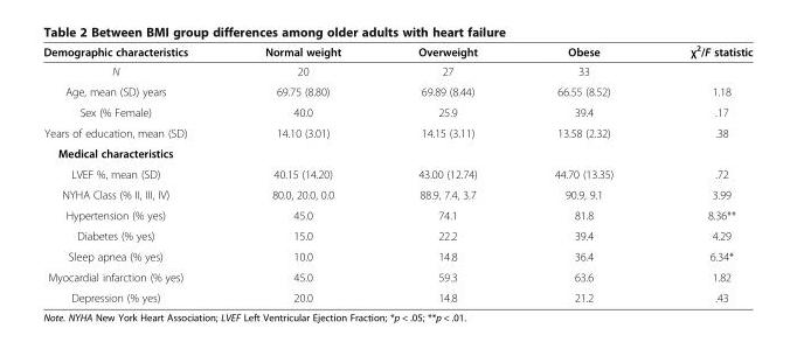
<table><thead><tr><td>Demographic characteristics</td><td>Normal weight</td><td>Overweight</td><td>Obese</td><td>χ<sup>2</sup>/F statistic</td></tr></thead><tbody><tr><td>N</td><td>20</td><td>27</td><td>33</td><td></td></tr><tr><td>Age, mean (SD) years</td><td>69.75 (8.80)</td><td>69.89 (8.44)</td><td>66.55 (8.52)</td><td>1.18</td></tr><tr><td>Sex (% Female)</td><td>40.0</td><td>25.9</td><td>39.4</td><td>.17</td></tr><tr><td>Years of education, mean (SD)</td><td>14.10 (3.01)</td><td>14.15 (3.11)</td><td>13.58 (2.32)</td><td>.38</td></tr><tr><td colspan="5">Medical characteristics</td></tr><tr><td>LVEF %, mean (SD)</td><td>40.15 (14.20)</td><td>43.00 (12.74)</td><td>44.70 (13.35)</td><td>.72</td></tr><tr><td>NYHA Class (% II, III, IV)</td><td>80.0, 20.0, 0.0</td><td>88.9, 7.4, 3.7</td><td>90.9, 9.1</td><td>3.99</td></tr><tr><td>Hypertension (% yes)</td><td>45.0</td><td>74.1</td><td>81.8</td><td>8.36**</td></tr><tr><td>Diabetes (% yes)</td><td>15.0</td><td>22.2</td><td>39.4</td><td>4.29</td></tr><tr><td>Sleep apnea (% yes)</td><td>10.0</td><td>14.8</td><td>36.4</td><td>6.34*</td></tr><tr><td>Myocardial infarction (% yes)</td><td>45.0</td><td>59.3</td><td>63.6</td><td>1.82</td></tr><tr><td>Depression (% yes)</td><td>20.0</td><td>14.8</td><td>21.2</td><td>.43</td></tr></tbody></table>